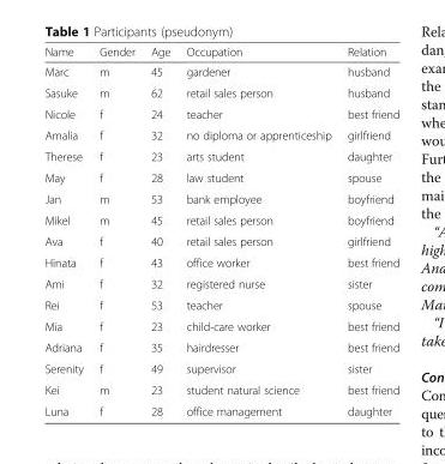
<table><thead><tr><td>Name</td><td>Gender</td><td>Age</td><td>Occupation</td><td>Relation</td></tr></thead><tbody><tr><td>Marc</td><td>m</td><td>45</td><td>gardener</td><td>husband</td></tr><tr><td>Sasuke</td><td>m</td><td>62</td><td>retail sales person</td><td>husband</td></tr><tr><td>Nicole</td><td>f</td><td>24</td><td>teacher</td><td>best friend</td></tr><tr><td>Amalia</td><td>f</td><td>32</td><td>no diploma or apprenticeship</td><td>girlfriend</td></tr><tr><td>Therese</td><td>f</td><td>23</td><td>arts student</td><td>daughter</td></tr><tr><td>May</td><td>f</td><td>28</td><td>law student</td><td>spouse</td></tr><tr><td>Jan</td><td>m</td><td>53</td><td>bank employee</td><td>boyfriend</td></tr><tr><td>Mikel</td><td>m</td><td>45</td><td>retail sales person</td><td>boyfriend</td></tr><tr><td>Ava</td><td>f</td><td>40</td><td>retail sales person</td><td>girlfriend</td></tr><tr><td>Hinata</td><td>f</td><td>43</td><td>office worker</td><td>best friend</td></tr><tr><td>Ami</td><td>f</td><td>32</td><td>registered nurse</td><td>sister</td></tr><tr><td>Rei</td><td>f</td><td>53</td><td>teacher</td><td>spouse</td></tr><tr><td>Mia</td><td>f</td><td>23</td><td>child-care worker</td><td>best friend</td></tr><tr><td>Adriana</td><td>f</td><td>35</td><td>hairdresser</td><td>best friend</td></tr><tr><td>Serenity</td><td>f</td><td>49</td><td>supervisor</td><td>sister</td></tr><tr><td>Kei</td><td>m</td><td>23</td><td>student natural science</td><td>best friend</td></tr><tr><td>Luna</td><td>f</td><td>28</td><td>office management</td><td>daughter</td></tr></tbody></table>